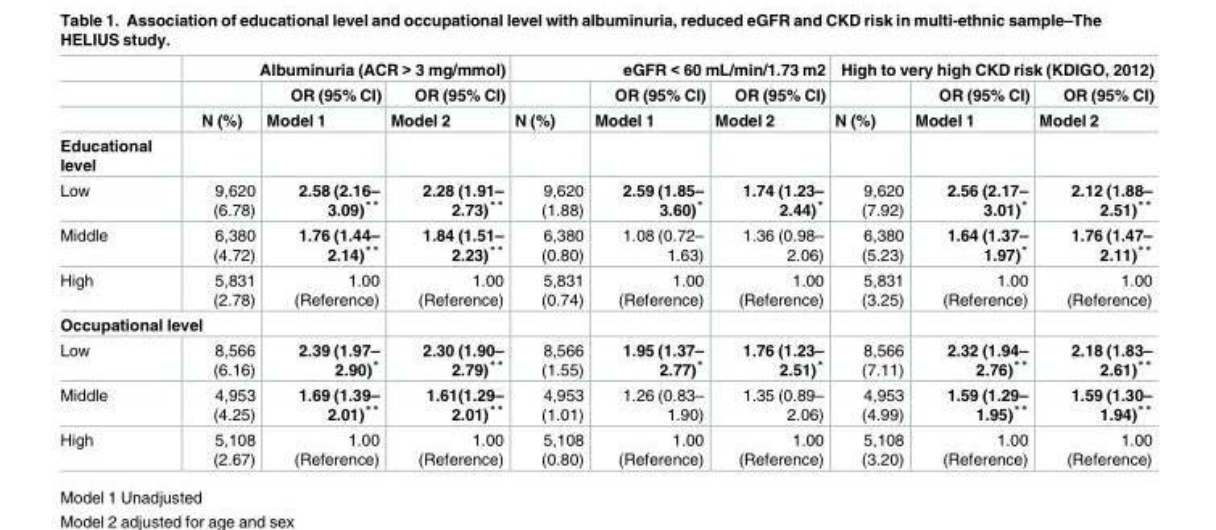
<table><thead><tr><td rowspan="3"></td><td colspan="3">Albuminuria (ACR &gt; 3 mg/mmol)</td><td colspan="3">eGFR &lt; 60 mL/min/1.73 m2</td><td colspan="3">High to very high CKD risk (KDIGO, 2012)</td></tr><tr><td rowspan="2">N (%)</td><td rowspan="2">OR (95% CI) Model 1</td><td rowspan="2">OR (95% CI) Model 2</td><td rowspan="2">N (%)</td><td rowspan="2">OR (95% CI) Model 1</td><td rowspan="2">OR (95% CI) Model 2</td><td rowspan="2">N (%)</td><td rowspan="2">OR (95% CI) Model 1</td><td rowspan="2">OR (95% CI) Model 2</td></tr><tr></tr></thead><tbody><tr><td colspan="10">Educational level</td></tr><tr><td>Low</td><td>9,620 (6.78)</td><td>2.58 (2.16– 3.09)**</td><td>2.28 (1.91– 2.73)**</td><td>9,620 (1.88)</td><td>2.59 (1.85– 3.60)*</td><td>1.74 (1.23– 2.44)*</td><td>9,620 (7.92)</td><td>2.56 (2.17– 3.01)*</td><td>2.12 (1.88– 2.51)**</td></tr><tr><td>Middle</td><td>6,380 (4.72)</td><td>1.76 (1.44– 2.14)**</td><td>1.84 (1.51– 2.23)**</td><td>6,380 (0.80)</td><td>1.08 (0.72– 1.63)</td><td>1.36 (0.98– 2.06)</td><td>6,380 (5.23)</td><td>1.64 (1.37– 1.97)*</td><td>1.76 (1.47– 2.11)**</td></tr><tr><td>High</td><td>5,831 (2.78)</td><td>1.00 (Reference)</td><td>1.00 (Reference)</td><td>5,831 (0.74)</td><td>1.00 (Reference)</td><td>1.00 (Reference)</td><td>5,831 (3.25)</td><td>1.00 (Reference)</td><td>1.00 (Reference)</td></tr><tr><td colspan="10">Occupational level</td></tr><tr><td>Low</td><td>8,566 (6.16)</td><td>2.39 (1.97– 2.90)*</td><td>2.30 (1.90– 2.79)**</td><td>8,566 (1.55)</td><td>1.95 (1.37– 2.77)*</td><td>1.76 (1.23– 2.51)*</td><td>8,566 (7.11)</td><td>2.32 (1.94– 2.76)**</td><td>2.18 (1.83– 2.61)**</td></tr><tr><td>Middle</td><td>4,953 (4.25)</td><td>1.69 (1.39– 2.01)**</td><td>1.61(1.29– 2.01)**</td><td>4,953 (1.01)</td><td>1.26 (0.83– 1.90)</td><td>1.35 (0.89– 2.06)</td><td>4,953 (4.99)</td><td>1.59 (1.29– 1.95)**</td><td>1.59 (1.30– 1.94)**</td></tr><tr><td>High</td><td>5,108 (2.67)</td><td>1.00 (Reference)</td><td>1.00 (Reference)</td><td>5,108 (0.80)</td><td>1.00 (Reference)</td><td>1.00 (Reference)</td><td>5,108 (3.20)</td><td>1.00 (Reference)</td><td>1.00 (Reference)</td></tr></tbody></table>